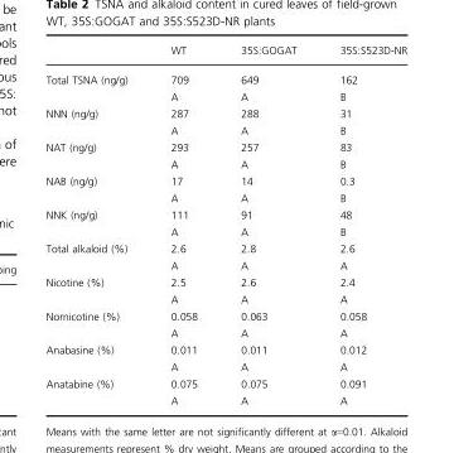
<table><thead><tr><td></td><td>WT</td><td>35S:GOGAT</td><td>35S:S523D-NR</td></tr></thead><tbody><tr><td rowspan="2">Total TSNA (ng/g)</td><td>709</td><td>649</td><td>162</td></tr><tr><td>A</td><td>A</td><td>B</td></tr><tr><td rowspan="2">NNN (ng/g)</td><td>287</td><td>288</td><td>31</td></tr><tr><td>A</td><td>A</td><td>B</td></tr><tr><td rowspan="2">NAT (ng/g)</td><td>293</td><td>257</td><td>83</td></tr><tr><td>A</td><td>A</td><td>B</td></tr><tr><td rowspan="2">NAB (ng/g)</td><td>17</td><td>14</td><td>0.3</td></tr><tr><td>A</td><td>A</td><td>B</td></tr><tr><td rowspan="2">NNK (ng/g)</td><td>111</td><td>91</td><td>48</td></tr><tr><td>A</td><td>A</td><td>B</td></tr><tr><td rowspan="2">Total alkaloid (%)</td><td>2.6</td><td>2.8</td><td>2.6</td></tr><tr><td>A</td><td>A</td><td>A</td></tr><tr><td rowspan="2">Nicotine (%)</td><td>2.5</td><td>2.6</td><td>2.4</td></tr><tr><td>A</td><td>A</td><td>A</td></tr><tr><td rowspan="2">Nornicotine (%)</td><td>0.058</td><td>0.063</td><td>0.058</td></tr><tr><td>A</td><td>A</td><td>A</td></tr><tr><td rowspan="2">Anabasine (%)</td><td>0.011</td><td>0.011</td><td>0.012</td></tr><tr><td>A</td><td>A</td><td>A</td></tr><tr><td rowspan="2">Anatabine (%)</td><td>0.075</td><td>0.075</td><td>0.091</td></tr><tr><td>A</td><td>A</td><td>A</td></tr></tbody></table>